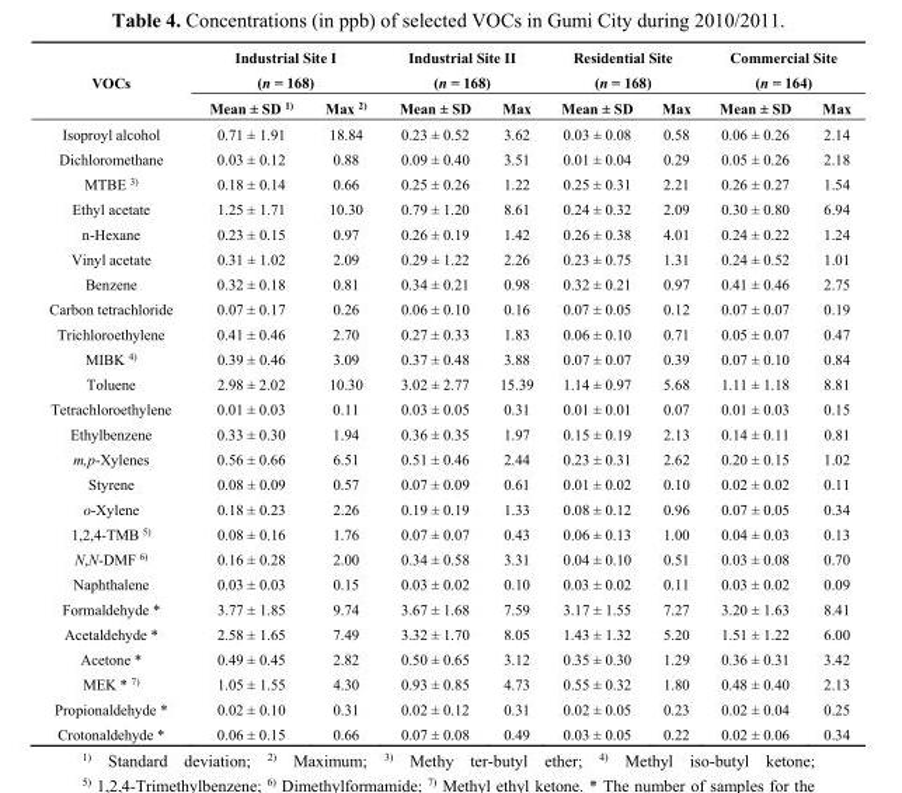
<table><thead><tr><td rowspan="2">VOCs</td><td colspan="2">Industrial Site I (n = 168)</td><td colspan="2">Industrial Site II (n = 168)</td><td colspan="2">Residential Site (n = 168)</td><td colspan="2">Commercial Site (n = 164)</td></tr><tr><td>Mean ± SD <sup>1)</sup></td><td>Max <sup>2)</sup></td><td>Mean ± SD</td><td>Max</td><td>Mean ± SD</td><td>Max</td><td>Mean ± SD</td><td>Max</td></tr></thead><tbody><tr><td>Isoproyl alcohol</td><td>0.71 ± 1.91</td><td>18.84</td><td>0.23 ± 0.52</td><td>3.62</td><td>0.03 ± 0.08</td><td>0.58</td><td>0.06 ± 0.26</td><td>2.14</td></tr><tr><td>Dichloromethane</td><td>0.03 ± 0.12</td><td>0.88</td><td>0.09 ± 0.40</td><td>3.51</td><td>0.01 ± 0.04</td><td>0.29</td><td>0.05 ± 0.26</td><td>2.18</td></tr><tr><td>MTBE <sup>3)</sup></td><td>0.18 ± 0.14</td><td>0.66</td><td>0.25 ± 0.26</td><td>1.22</td><td>0.25 ± 0.31</td><td>2.21</td><td>0.26 ± 0.27</td><td>1.54</td></tr><tr><td>Ethyl acetate</td><td>1.25 ± 1.71</td><td>10.30</td><td>0.79 ± 1.20</td><td>8.61</td><td>0.24 ± 0.32</td><td>2.09</td><td>0.30 ± 0.80</td><td>6.94</td></tr><tr><td>n-Hexane</td><td>0.23 ± 0.15</td><td>0.97</td><td>0.26 ± 0.19</td><td>1.42</td><td>0.26 ± 0.38</td><td>4.01</td><td>0.24 ± 0.22</td><td>1.24</td></tr><tr><td>Vinyl acetate</td><td>0.31 ± 1.02</td><td>2.09</td><td>0.29 ± 1.22</td><td>2.26</td><td>0.23 ± 0.75</td><td>1.31</td><td>0.24 ± 0.52</td><td>1.01</td></tr><tr><td>Benzene</td><td>0.32 ± 0.18</td><td>0.81</td><td>0.34 ± 0.21</td><td>0.98</td><td>0.32 ± 0.21</td><td>0.97</td><td>0.41 ± 0.46</td><td>2.75</td></tr><tr><td>Carbon tetrachloride</td><td>0.07 ± 0.17</td><td>0.26</td><td>0.06 ± 0.10</td><td>0.16</td><td>0.07 ± 0.05</td><td>0.12</td><td>0.07 ± 0.07</td><td>0.19</td></tr><tr><td>Trichloroethylene</td><td>0.41 ± 0.46</td><td>2.70</td><td>0.27 ± 0.33</td><td>1.83</td><td>0.06 ± 0.10</td><td>0.71</td><td>0.05 ± 0.07</td><td>0.47</td></tr><tr><td>MIBK <sup>4)</sup></td><td>0.39 ± 0.46</td><td>3.09</td><td>0.37 ± 0.48</td><td>3.88</td><td>0.07 ± 0.07</td><td>0.39</td><td>0.07 ± 0.10</td><td>0.84</td></tr><tr><td>Toluene</td><td>2.98 ± 2.02</td><td>10.30</td><td>3.02 ± 2.77</td><td>15.39</td><td>1.14 ± 0.97</td><td>5.68</td><td>1.11 ± 1.18</td><td>8.81</td></tr><tr><td>Tetrachloroethylene</td><td>0.01 ± 0.03</td><td>0.11</td><td>0.03 ± 0.05</td><td>0.31</td><td>0.01 ± 0.01</td><td>0.07</td><td>0.01 ± 0.03</td><td>0.15</td></tr><tr><td>Ethylbenzene</td><td>0.33 ± 0.30</td><td>1.94</td><td>0.36 ± 0.35</td><td>1.97</td><td>0.15 ± 0.19</td><td>2.13</td><td>0.14 ± 0.11</td><td>0.81</td></tr><tr><td>m,p-Xylenes</td><td>0.56 ± 0.66</td><td>6.51</td><td>0.51 ± 0.46</td><td>2.44</td><td>0.23 ± 0.31</td><td>2.62</td><td>0.20 ± 0.15</td><td>1.02</td></tr><tr><td>Styrene</td><td>0.08 ± 0.09</td><td>0.57</td><td>0.07 ± 0.09</td><td>0.61</td><td>0.01 ± 0.02</td><td>0.10</td><td>0.02 ± 0.02</td><td>0.11</td></tr><tr><td>o-Xylene</td><td>0.18 ± 0.23</td><td>2.26</td><td>0.19 ± 0.19</td><td>1.33</td><td>0.08 ± 0.12</td><td>0.96</td><td>0.07 ± 0.05</td><td>0.34</td></tr><tr><td>1,2,4-TMB <sup>5)</sup></td><td>0.08 ± 0.16</td><td>1.76</td><td>0.07 ± 0.07</td><td>0.43</td><td>0.06 ± 0.13</td><td>1.00</td><td>0.04 ± 0.03</td><td>0.13</td></tr><tr><td>N,N-DMF <sup>6)</sup></td><td>0.16 ± 0.28</td><td>2.00</td><td>0.34 ± 0.58</td><td>3.31</td><td>0.04 ± 0.10</td><td>0.51</td><td>0.03 ± 0.08</td><td>0.70</td></tr><tr><td>Naphthalene</td><td>0.03 ± 0.03</td><td>0.15</td><td>0.03 ± 0.02</td><td>0.10</td><td>0.03 ± 0.02</td><td>0.11</td><td>0.03 ± 0.02</td><td>0.09</td></tr><tr><td>Formaldehyde *</td><td>3.77 ± 1.85</td><td>9.74</td><td>3.67 ± 1.68</td><td>7.59</td><td>3.17 ± 1.55</td><td>7.27</td><td>3.20 ± 1.63</td><td>8.41</td></tr><tr><td>Acetaldehyde *</td><td>2.58 ± 1.65</td><td>7.49</td><td>3.32 ± 1.70</td><td>8.05</td><td>1.43 ± 1.32</td><td>5.20</td><td>1.51 ± 1.22</td><td>6.00</td></tr><tr><td>Acetone *</td><td>0.49 ± 0.45</td><td>2.82</td><td>0.50 ± 0.65</td><td>3.12</td><td>0.35 ± 0.30</td><td>1.29</td><td>0.36 ± 0.31</td><td>3.42</td></tr><tr><td>MEK * <sup>7)</sup></td><td>1.05 ± 1.55</td><td>4.30</td><td>0.93 ± 0.85</td><td>4.73</td><td>0.55 ± 0.32</td><td>1.80</td><td>0.48 ± 0.40</td><td>2.13</td></tr><tr><td>Propionaldehyde *</td><td>0.02 ± 0.10</td><td>0.31</td><td>0.02 ± 0.12</td><td>0.31</td><td>0.02 ± 0.05</td><td>0.23</td><td>0.02 ± 0.04</td><td>0.25</td></tr><tr><td>Crotonaldehyde *</td><td>0.06 ± 0.15</td><td>0.66</td><td>0.07 ± 0.08</td><td>0.49</td><td>0.03 ± 0.05</td><td>0.22</td><td>0.02 ± 0.06</td><td>0.34</td></tr></tbody></table>